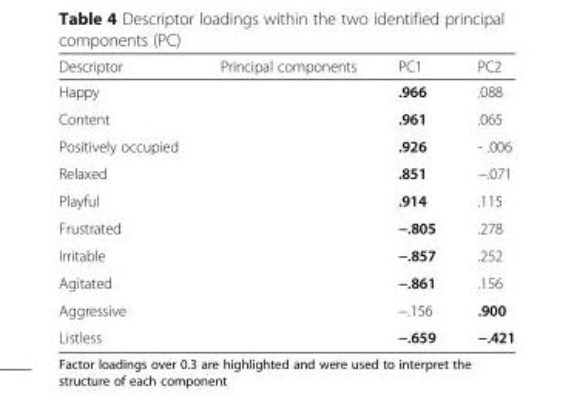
<table><thead><tr><td>Descriptor</td><td>Principal components</td><td>PC1</td><td>PC2</td></tr></thead><tbody><tr><td>Happy</td><td></td><td>.966</td><td>.088</td></tr><tr><td>Content</td><td></td><td>.961</td><td>.065</td></tr><tr><td>Positively occupied</td><td></td><td>.926</td><td>- .006</td></tr><tr><td>Relaxed</td><td></td><td>.851</td><td>−.071</td></tr><tr><td>Playful</td><td></td><td>.914</td><td>.115</td></tr><tr><td>Frustrated</td><td></td><td>−.805</td><td>.278</td></tr><tr><td>Irritable</td><td></td><td>−.857</td><td>.252</td></tr><tr><td>Agitated</td><td></td><td>−.861</td><td>.156</td></tr><tr><td>Aggressive</td><td></td><td>−.156</td><td>.900</td></tr><tr><td>Listless</td><td></td><td>−.659</td><td>−.421</td></tr></tbody></table>